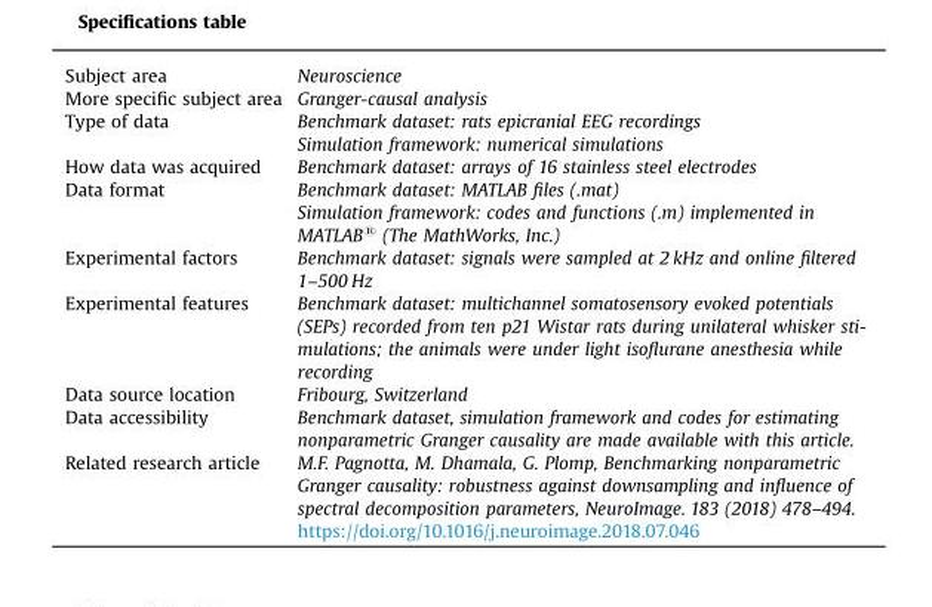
<table><thead><tr><td>Subject area</td><td>Neuroscience</td></tr></thead><tbody><tr><td>More specific subject area</td><td>Granger-causal analysis</td></tr><tr><td rowspan="2">Type of data</td><td>Benchmark dataset: rats epicranial EEG recordings</td></tr><tr><td>Simulation framework: numerical simulations</td></tr><tr><td>How data was acquired</td><td>Benchmark dataset: arrays of 16 stainless steel electrodes</td></tr><tr><td rowspan="2">Data format</td><td>Benchmark dataset: MATLAB files (.mat)</td></tr><tr><td>Simulation framework: codes and functions (.m) implemented in MATLAB® (The MathWorks, Inc.)</td></tr><tr><td>Experimental factors</td><td>Benchmark dataset: signals were sampled at 2 kHz and online filtered 1–500 Hz</td></tr><tr><td>Experimental features</td><td>Benchmark dataset: multichannel somatosensory evoked potentials (SEPs) recorded from ten p21 Wistar rats during unilateral whisker sti- mulations; the animals were under light isoflurane anesthesia while recording</td></tr><tr><td>Data source location</td><td>Fribourg, Switzerland</td></tr><tr><td>Data accessibility</td><td>Benchmark dataset, simulation framework and codes for estimating nonparametric Granger causality are made available with this article.</td></tr><tr><td>Related research article</td><td>M.F. Pagnotta, M. Dhamala, G. Plomp, Benchmarking nonparametric Granger causality: robustness against downsampling and influence of spectral decomposition parameters, NeuroImage. 183 (2018) 478–494. https://doi.org/10.1016/j.neuroimage.2018.07.046</td></tr></tbody></table>